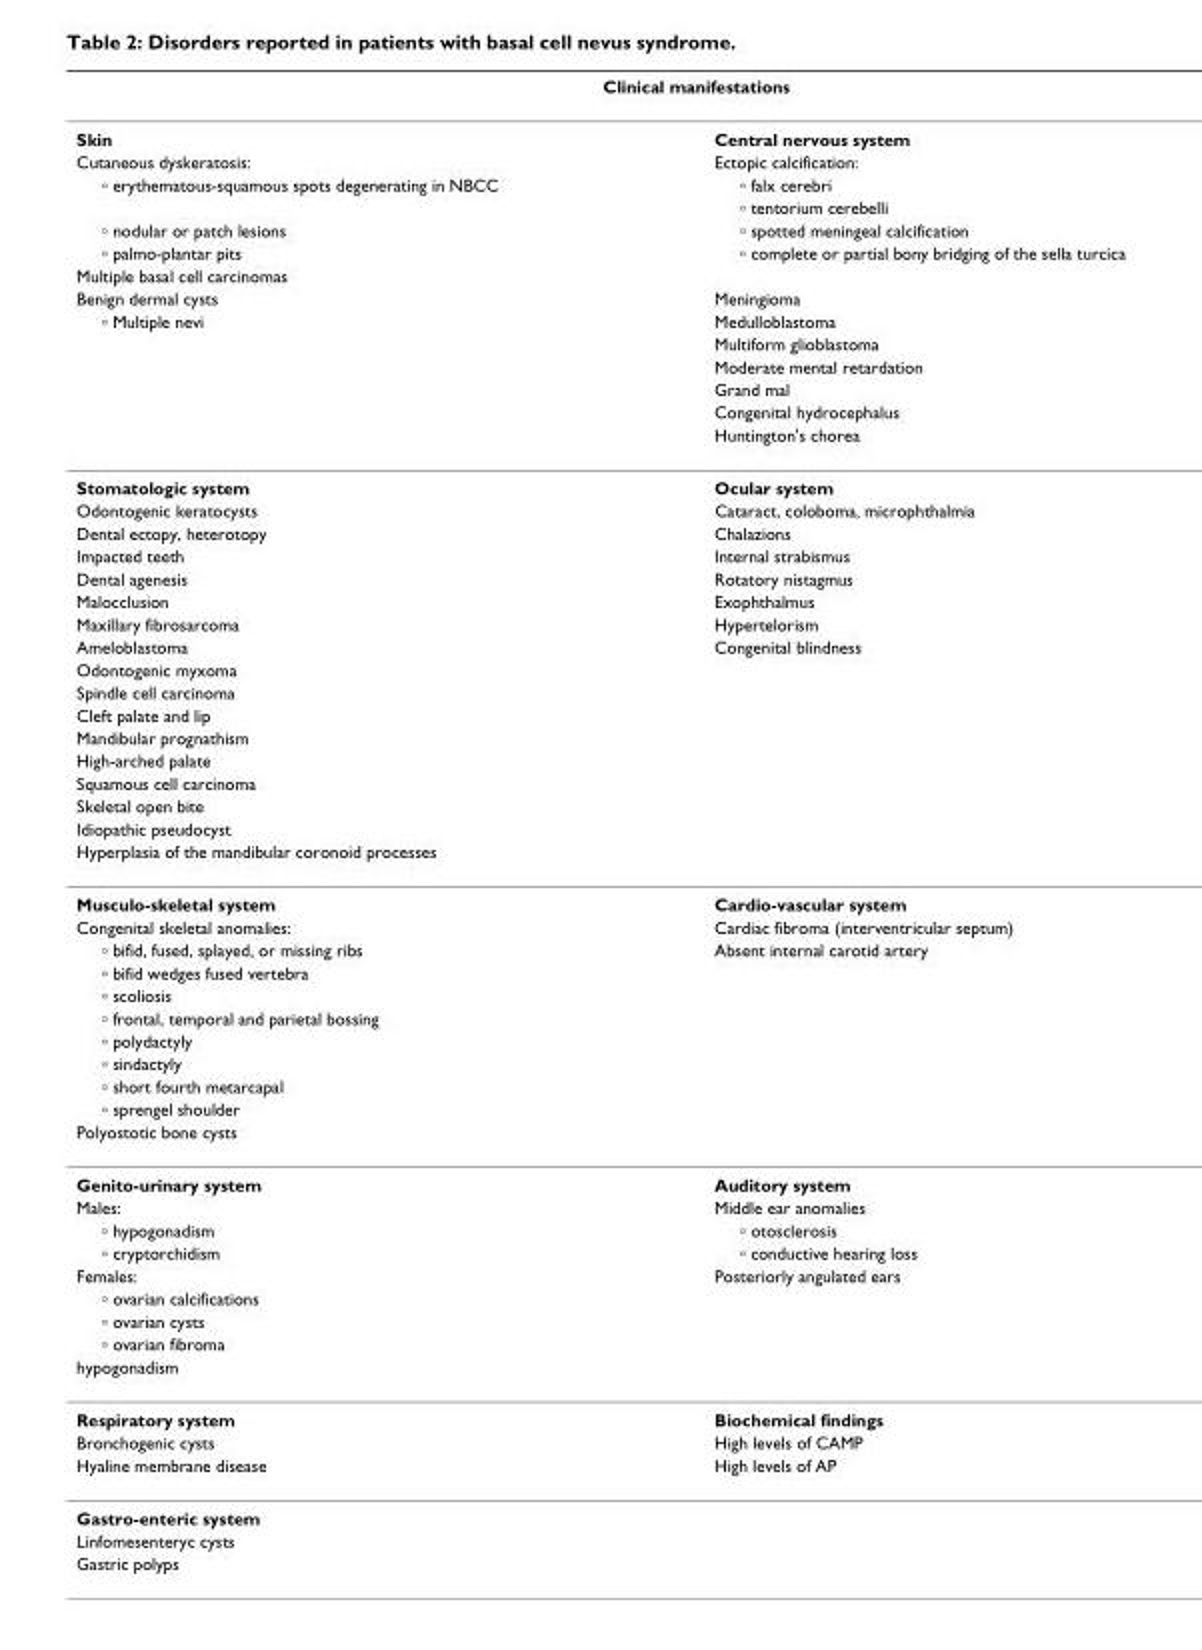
<table><thead><tr><td colspan="2">Clinical manifestations</td></tr><tr><td>Skin</td><td>Central nervous system</td></tr></thead><tbody><tr><td>Cutaneous dyskeratosis:</td><td>Ectopic calcification:</td></tr><tr><td rowspan="2">∘ erythematous-squamous spots degenerating in NBCC</td><td>∘ falx cerebri</td></tr><tr><td>∘ tentorium cerebelli</td></tr><tr><td>∘ nodular or patch lesions</td><td>∘ spotted meningeal calcification</td></tr><tr><td>∘ palmo-plantar pits</td><td>∘ complete or partial bony bridging of the sella turcica</td></tr><tr><td colspan="2">Multiple basal cell carcinomas</td></tr><tr><td>Benign dermal cysts</td><td>Meningioma</td></tr><tr><td rowspan="6">∘ Multiple nevi</td><td>Medulloblastoma</td></tr><tr><td>Multiform glioblastoma</td></tr><tr><td>Moderate mental retardation</td></tr><tr><td>Grand mal</td></tr><tr><td>Congenital hydrocephalus</td></tr><tr><td>Huntington&#x27;s chorea</td></tr><tr><td>Stomatologic system</td><td>Ocular system</td></tr><tr><td>Odontogenic keratocysts</td><td>Cataract, coloboma, microphthalmia</td></tr><tr><td>Dental ectopy, heterotopy</td><td>Chalazions</td></tr><tr><td>Impacted teeth</td><td>Internal strabismus</td></tr><tr><td>Dental agenesis</td><td>Rotatory nistagmus</td></tr><tr><td>Malocclusion</td><td>Exophthalmus</td></tr><tr><td>Maxillary fibrosarcoma</td><td>Hypertelorism</td></tr><tr><td>Ameloblastoma</td><td>Congenital blindness</td></tr><tr><td colspan="2">Odontogenic myxoma</td></tr><tr><td colspan="2">Spindle cell carcinoma</td></tr><tr><td colspan="2">Cleft palate and lip</td></tr><tr><td colspan="2">Mandibular prognathism</td></tr><tr><td colspan="2">High-arched palate</td></tr><tr><td colspan="2">Squamous cell carcinoma</td></tr><tr><td colspan="2">Skeletal open bite</td></tr><tr><td colspan="2">Idiopathic pseudocyst</td></tr><tr><td colspan="2">Hyperplasia of the mandibular coronoid processes</td></tr><tr><td>Musculo-skeletal system</td><td>Cardio-vascular system</td></tr><tr><td>Congenital skeletal anomalies:</td><td>Cardiac fibroma (interventricular septum)</td></tr><tr><td>∘ bifid, fused, splayed, or missing ribs</td><td>Absent internal carotid artery</td></tr><tr><td colspan="2">∘ bifid wedges fused vertebra</td></tr><tr><td colspan="2">∘ scoliosis</td></tr><tr><td colspan="2">∘ frontal, temporal and parietal bossing</td></tr><tr><td colspan="2">∘ polydactyly</td></tr><tr><td colspan="2">∘ sindactyly</td></tr><tr><td colspan="2">∘ short fourth metarcapal</td></tr><tr><td colspan="2">∘ sprengel shoulder</td></tr><tr><td colspan="2">Polyostotic bone cysts</td></tr><tr><td>Genito-urinary system</td><td>Auditory system</td></tr><tr><td>Males:</td><td>Middle ear anomalies</td></tr><tr><td>∘ hypogonadism</td><td>∘ otosclerosis</td></tr><tr><td>∘ cryptorchidism</td><td>∘ conductive hearing loss</td></tr><tr><td>Females:</td><td>Posteriorly angulated ears</td></tr><tr><td colspan="2">∘ ovarian calcifications</td></tr><tr><td colspan="2">∘ ovarian cysts</td></tr><tr><td colspan="2">∘ ovarian fibroma</td></tr><tr><td colspan="2">hypogonadism</td></tr><tr><td>Respiratory system</td><td>Biochemical findings</td></tr><tr><td>Bronchogenic cysts</td><td>High levels of CAMP</td></tr><tr><td>Hyaline membrane disease</td><td>High levels of AP</td></tr><tr><td colspan="2">Gastro-enteric system</td></tr><tr><td colspan="2">Linfomesenteryc cysts</td></tr><tr><td>Gastric polyps</td><td></td></tr></tbody></table>